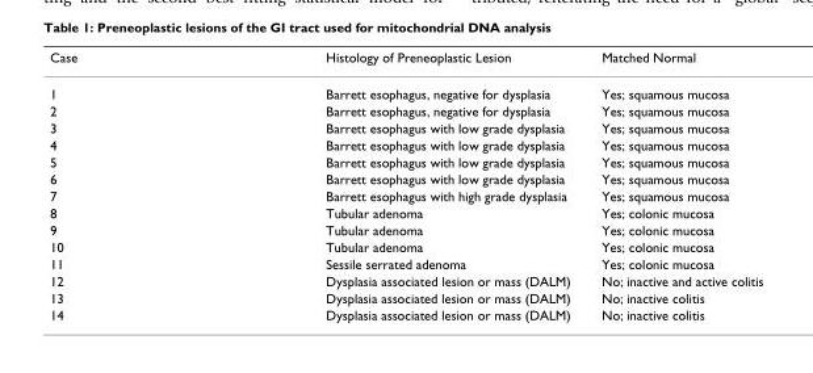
<table><thead><tr><td>Case</td><td>Histology of Preneoplastic Lesion</td><td>Matched Normal</td></tr></thead><tbody><tr><td>1</td><td>Barrett esophagus, negative for dysplasia</td><td>Yes; squamous mucosa</td></tr><tr><td>2</td><td>Barrett esophagus, negative for dysplasia</td><td>Yes; squamous mucosa</td></tr><tr><td>3</td><td>Barrett esophagus with low grade dysplasia</td><td>Yes; squamous mucosa</td></tr><tr><td>4</td><td>Barrett esophagus with low grade dysplasia</td><td>Yes; squamous mucosa</td></tr><tr><td>5</td><td>Barrett esophagus with low grade dysplasia</td><td>Yes; squamous mucosa</td></tr><tr><td>6</td><td>Barrett esophagus with low grade dysplasia</td><td>Yes; squamous mucosa</td></tr><tr><td>7</td><td>Barrett esophagus with high grade dysplasia</td><td>Yes; squamous mucosa</td></tr><tr><td>8</td><td>Tubular adenoma</td><td>Yes; colonic mucosa</td></tr><tr><td>9</td><td>Tubular adenoma</td><td>Yes; colonic mucosa</td></tr><tr><td>10</td><td>Tubular adenoma</td><td>Yes; colonic mucosa</td></tr><tr><td>11</td><td>Sessile serrated adenoma</td><td>Yes; colonic mucosa</td></tr><tr><td>12</td><td>Dysplasia associated lesion or mass (DALM)</td><td>No; inactive and active colitis</td></tr><tr><td>13</td><td>Dysplasia associated lesion or mass (DALM)</td><td>No; inactive colitis</td></tr><tr><td>14</td><td>Dysplasia associated lesion or mass (DALM)</td><td>No; inactive colitis</td></tr></tbody></table>